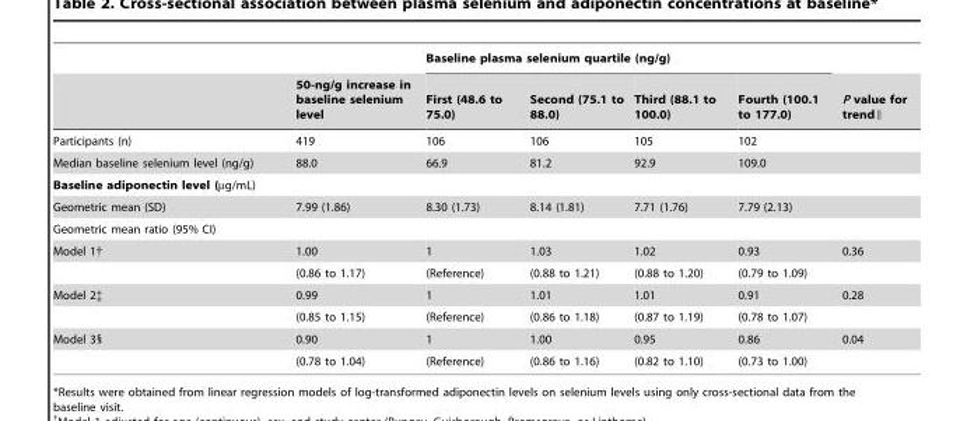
<table><thead><tr><td rowspan="2"></td><td rowspan="2">50-ng/g increase in baseline selenium level</td><td colspan="4">Baseline plasma selenium quartile (ng/g)</td><td rowspan="2">P value for trend∥</td></tr><tr><td>First (48.6 to 75.0)</td><td>Second (75.1 to 88.0)</td><td>Third (88.1 to 100.0)</td><td>Fourth (100.1 to 177.0)</td></tr></thead><tbody><tr><td>Participants (n)</td><td>419</td><td>106</td><td>106</td><td>105</td><td>102</td><td></td></tr><tr><td>Median baseline selenium level (ng/g)</td><td>88.0</td><td>66.9</td><td>81.2</td><td>92.9</td><td>109.0</td><td></td></tr><tr><td colspan="7">Baseline adiponectin level (µg/mL)</td></tr><tr><td>Geometric mean (SD)</td><td>7.99 (1.86)</td><td>8.30 (1.73)</td><td>8.14 (1.81)</td><td>7.71 (1.76)</td><td>7.79 (2.13)</td><td></td></tr><tr><td colspan="7">Geometric mean ratio (95% CI)</td></tr><tr><td rowspan="2">Model 1†</td><td>1.00</td><td>1</td><td>1.03</td><td>1.02</td><td>0.93</td><td>0.36</td></tr><tr><td>(0.86 to 1.17)</td><td>(Reference)</td><td>(0.88 to 1.21)</td><td>(0.88 to 1.20)</td><td>(0.79 to 1.09)</td><td></td></tr><tr><td rowspan="2">Model 2‡</td><td>0.99</td><td>1</td><td>1.01</td><td>1.01</td><td>0.91</td><td>0.28</td></tr><tr><td>(0.85 to 1.15)</td><td>(Reference)</td><td>(0.86 to 1.18)</td><td>(0.87 to 1.19)</td><td>(0.78 to 1.07)</td><td></td></tr><tr><td rowspan="2">Model 3§</td><td>0.90</td><td>1</td><td>1.00</td><td>0.95</td><td>0.86</td><td>0.04</td></tr><tr><td>(0.78 to 1.04)</td><td>(Reference)</td><td>(0.86 to 1.16)</td><td>(0.82 to 1.10)</td><td>(0.73 to 1.00)</td><td></td></tr></tbody></table>